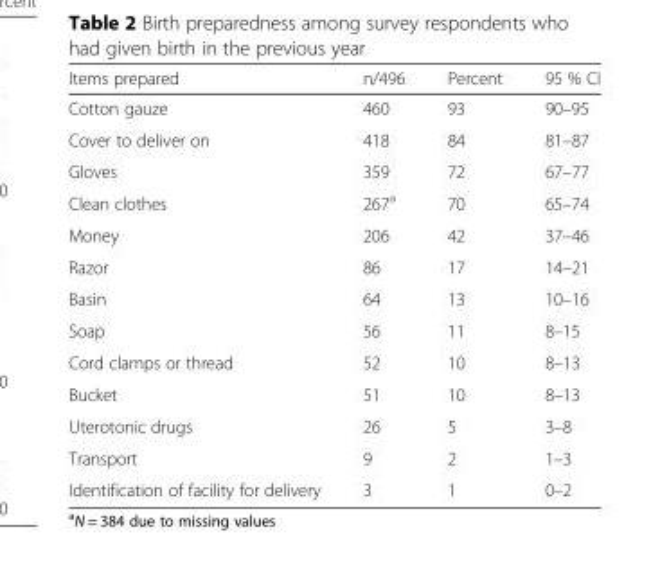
<table><thead><tr><td>Items prepared</td><td>n/496</td><td>Percent</td><td>95 % CI</td></tr></thead><tbody><tr><td>Cotton gauze</td><td>460</td><td>93</td><td>90–95</td></tr><tr><td>Cover to deliver on</td><td>418</td><td>84</td><td>81–87</td></tr><tr><td>Gloves</td><td>359</td><td>72</td><td>67–77</td></tr><tr><td>Clean clothes</td><td>267<sup>a</sup></td><td>70</td><td>65–74</td></tr><tr><td>Money</td><td>206</td><td>42</td><td>37–46</td></tr><tr><td>Razor</td><td>86</td><td>17</td><td>14–21</td></tr><tr><td>Basin</td><td>64</td><td>13</td><td>10–16</td></tr><tr><td>Soap</td><td>56</td><td>11</td><td>8–15</td></tr><tr><td>Cord clamps or thread</td><td>52</td><td>10</td><td>8–13</td></tr><tr><td>Bucket</td><td>51</td><td>10</td><td>8–13</td></tr><tr><td>Uterotonic drugs</td><td>26</td><td>5</td><td>3–8</td></tr><tr><td>Transport</td><td>9</td><td>2</td><td>1–3</td></tr><tr><td>Identification of facility for delivery</td><td>3</td><td>1</td><td>0–2</td></tr></tbody></table>